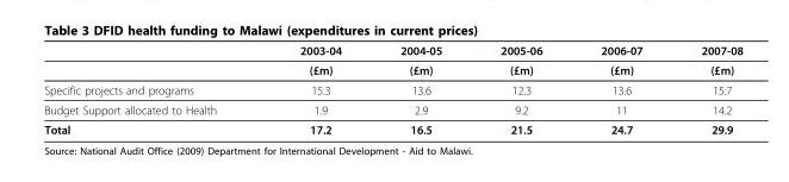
<table><thead><tr><td></td><td>2003-04</td><td>2004-05</td><td>2005-06</td><td>2006-07</td><td>2007-08</td></tr></thead><tbody><tr><td></td><td>(£m)</td><td>(£m)</td><td>(£m)</td><td>(£m)</td><td>(£m)</td></tr><tr><td>Specific projects and programs</td><td>15.3</td><td>13.6</td><td>12.3</td><td>13.6</td><td>15.7</td></tr><tr><td>Budget Support allocated to Health</td><td>1.9</td><td>2.9</td><td>9.2</td><td>11</td><td>14.2</td></tr><tr><td>Total</td><td>17.2</td><td>16.5</td><td>21.5</td><td>24.7</td><td>29.9</td></tr></tbody></table>